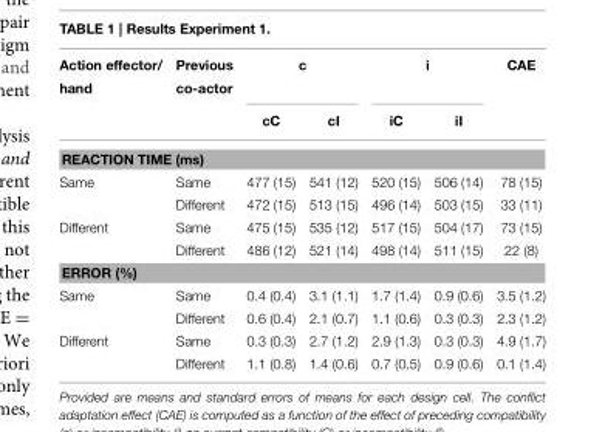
<table><thead><tr><td rowspan="2">Action effector/ hand</td><td rowspan="2">Previous co-actor</td><td colspan="2">c</td><td colspan="2">i</td><td rowspan="2">CAE</td></tr><tr><td>cC</td><td>cI</td><td>iC</td><td>iI</td></tr></thead><tbody><tr><td colspan="7">REACTION TIME (ms)</td></tr><tr><td rowspan="2">Same</td><td>Same</td><td>477 (15)</td><td>541 (12)</td><td>520 (15)</td><td>506 (14)</td><td>78 (15)</td></tr><tr><td>Different</td><td>472 (15)</td><td>513 (15)</td><td>496 (14)</td><td>503 (15)</td><td>33 (11)</td></tr><tr><td rowspan="2">Different</td><td>Same</td><td>475 (15)</td><td>535 (12)</td><td>517 (15)</td><td>504 (17)</td><td>73 (15)</td></tr><tr><td>Different</td><td>486 (12)</td><td>521 (14)</td><td>498 (14)</td><td>511 (15)</td><td>22 (8)</td></tr><tr><td colspan="7">ERROR (%)</td></tr><tr><td rowspan="2">Same</td><td>Same</td><td>0.4 (0.4)</td><td>3.1 (1.1)</td><td>1.7 (1.4)</td><td>0.9 (0.6)</td><td>3.5 (1.2)</td></tr><tr><td>Different</td><td>0.6 (0.4)</td><td>2.1 (0.7)</td><td>1.1 (0.6)</td><td>0.3 (0.3)</td><td>2.3 (1.2)</td></tr><tr><td rowspan="2">Different</td><td>Same</td><td>0.3 (0.3)</td><td>2.7 (1.2)</td><td>2.9 (1.3)</td><td>0.3 (0.3)</td><td>4.9 (1.7)</td></tr><tr><td>Different</td><td>1.1 (0.8)</td><td>1.4 (0.6)</td><td>0.7 (0.5)</td><td>0.9 (0.6)</td><td>0.1 (1.4)</td></tr></tbody></table>